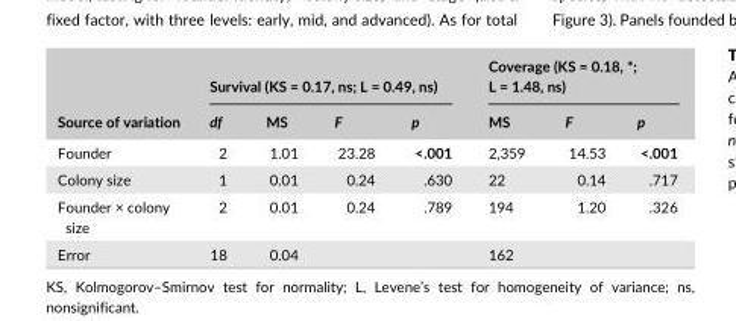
<table><thead><tr><td rowspan="2">Source of variation</td><td colspan="4">Survival (KS = 0.17, ns; L = 0.49, ns)</td><td colspan="3">Coverage (KS = 0.18, *; L = 1.48, ns)</td></tr><tr><td>df</td><td>MS</td><td>F</td><td>p</td><td>MS</td><td>F</td><td>p</td></tr></thead><tbody><tr><td>Founder</td><td>2</td><td>1.01</td><td>23.28</td><td>&lt;.001</td><td>2,359</td><td>14.53</td><td>&lt;.001</td></tr><tr><td>Colony size</td><td>1</td><td>0.01</td><td>0.24</td><td>.630</td><td>22</td><td>0.14</td><td>.717</td></tr><tr><td>Founder × colony size</td><td>2</td><td>0.01</td><td>0.24</td><td>.789</td><td>194</td><td>1.20</td><td>.326</td></tr><tr><td>Error</td><td>18</td><td>0.04</td><td></td><td></td><td>162</td><td></td><td></td></tr></tbody></table>